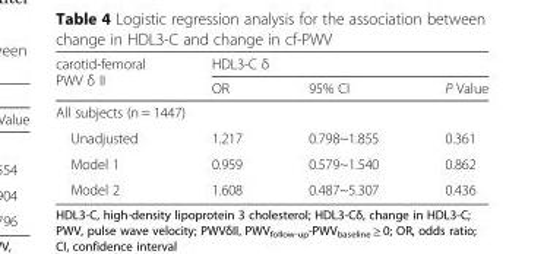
<table><thead><tr><td rowspan="2">carotid-femoral PWV δ II</td><td colspan="3">HDL3-C δ</td></tr><tr><td>OR</td><td>95% CI</td><td>P Value</td></tr></thead><tbody><tr><td colspan="4">All subjects (n = 1447)</td></tr><tr><td>Unadjusted</td><td>1.217</td><td>0.798~1.855</td><td>0.361</td></tr><tr><td>Model 1</td><td>0.959</td><td>0.579~1.540</td><td>0.862</td></tr><tr><td>Model 2</td><td>1.608</td><td>0.487~5.307</td><td>0.436</td></tr></tbody></table>